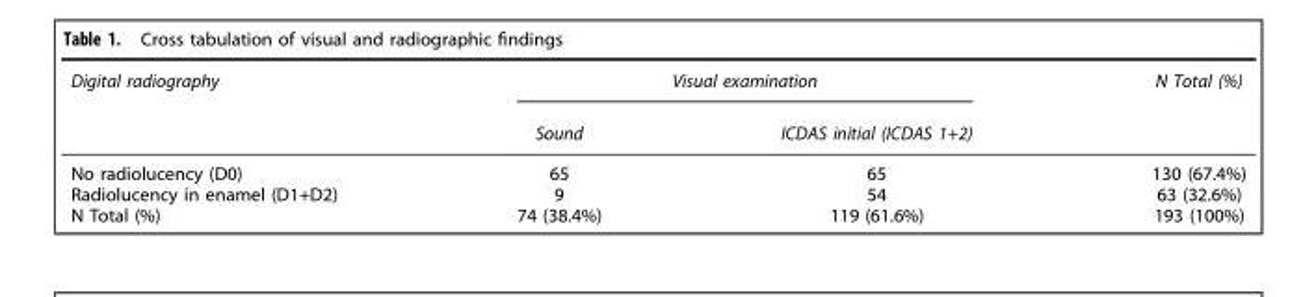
<table><thead><tr><td rowspan="2">Digital radiography</td><td colspan="2">Visual examination</td><td rowspan="2">N Total (%)</td></tr><tr><td>Sound</td><td>ICDAS initial (ICDAS 1+2)</td></tr></thead><tbody><tr><td>No radiolucency (D0)</td><td>65</td><td>65</td><td>130 (67.4%)</td></tr><tr><td>Radiolucency in enamel (D1+D2)</td><td>9</td><td>54</td><td>63 (32.6%)</td></tr><tr><td>N Total (%)</td><td>74 (38.4%)</td><td>119 (61.6%)</td><td>193 (100%)</td></tr></tbody></table>